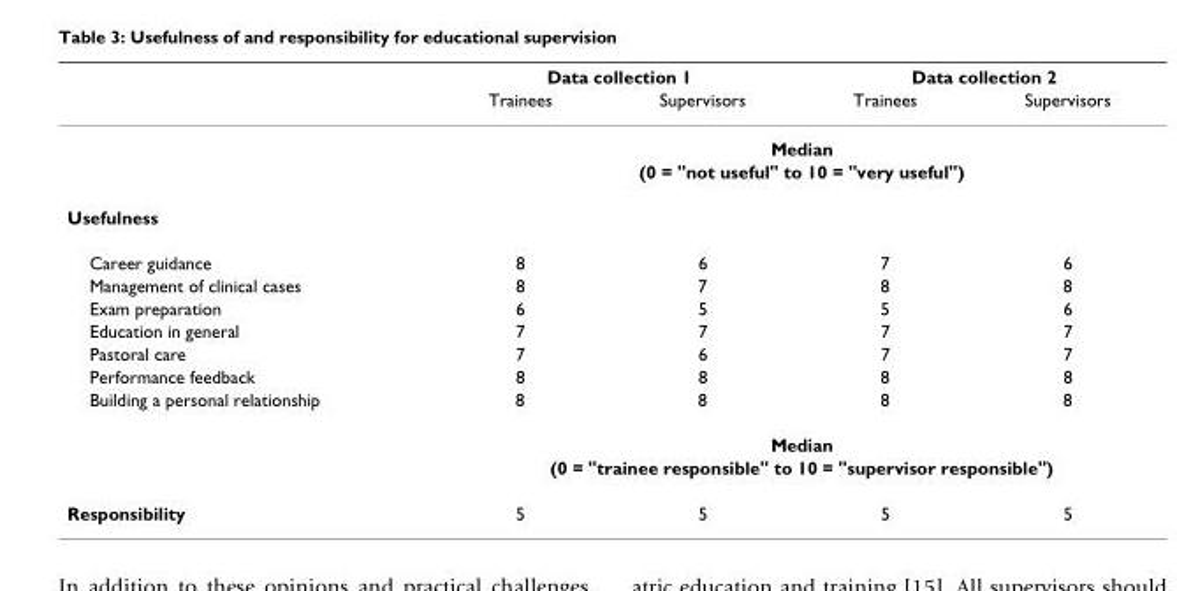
<table><thead><tr><td rowspan="2"></td><td colspan="2">Data collection 1</td><td colspan="2">Data collection 2</td></tr><tr><td>Trainees</td><td>Supervisors</td><td>Trainees</td><td>Supervisors</td></tr></thead><tbody><tr><td></td><td colspan="4">Median</td></tr><tr><td></td><td colspan="4">(0 = &quot;not useful&quot; to 10 = &quot;very useful&quot;)</td></tr><tr><td colspan="5">Usefulness</td></tr><tr><td>Career guidance</td><td>8</td><td>6</td><td>7</td><td>6</td></tr><tr><td>Management of clinical cases</td><td>8</td><td>7</td><td>8</td><td>8</td></tr><tr><td>Exam preparation</td><td>6</td><td>5</td><td>5</td><td>6</td></tr><tr><td>Education in general</td><td>7</td><td>7</td><td>7</td><td>7</td></tr><tr><td>Pastoral care</td><td>7</td><td>6</td><td>7</td><td>7</td></tr><tr><td>Performance feedback</td><td>8</td><td>8</td><td>8</td><td>8</td></tr><tr><td rowspan="3">Building a personal relationship</td><td>8</td><td>8</td><td>8</td><td>8</td></tr><tr><td colspan="4">Median</td></tr><tr><td colspan="4">(0 = &quot;trainee responsible&quot; to 10 = &quot;supervisor responsible&quot;)</td></tr><tr><td>Responsibility</td><td>5</td><td>5</td><td>5</td><td>5</td></tr></tbody></table>